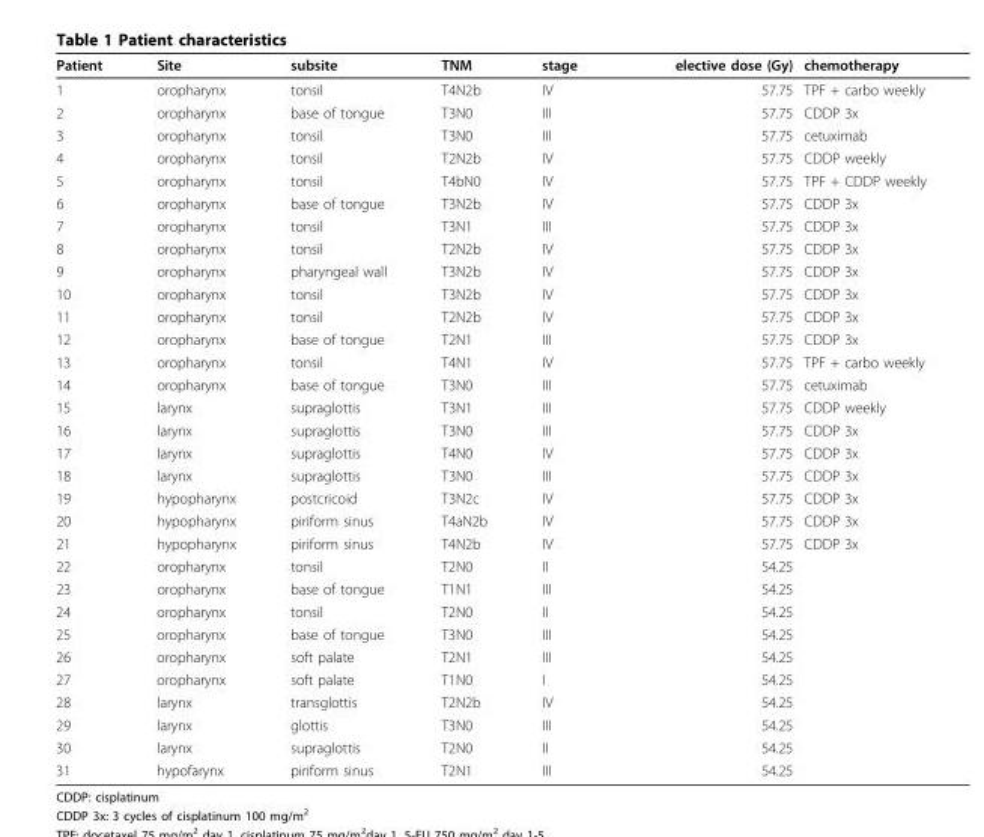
<table><thead><tr><td>Patient</td><td>Site</td><td>subsite</td><td>TNM</td><td>stage</td><td>elective dose (Gy)</td><td>chemotherapy</td></tr></thead><tbody><tr><td>1</td><td>oropharynx</td><td>tonsil</td><td>T4N2b</td><td>IV</td><td>57.75</td><td>TPF + carbo weekly</td></tr><tr><td>2</td><td>oropharynx</td><td>base of tongue</td><td>T3N0</td><td>III</td><td>57.75</td><td>CDDP 3x</td></tr><tr><td>3</td><td>oropharynx</td><td>tonsil</td><td>T3N0</td><td>III</td><td>57.75</td><td>cetuximab</td></tr><tr><td>4</td><td>oropharynx</td><td>tonsil</td><td>T2N2b</td><td>IV</td><td>57.75</td><td>CDDP weekly</td></tr><tr><td>5</td><td>oropharynx</td><td>tonsil</td><td>T4bN0</td><td>IV</td><td>57.75</td><td>TPF + CDDP weekly</td></tr><tr><td>6</td><td>oropharynx</td><td>base of tongue</td><td>T3N2b</td><td>IV</td><td>57.75</td><td>CDDP 3x</td></tr><tr><td>7</td><td>oropharynx</td><td>tonsil</td><td>T3N1</td><td>III</td><td>57.75</td><td>CDDP 3x</td></tr><tr><td>8</td><td>oropharynx</td><td>tonsil</td><td>T2N2b</td><td>IV</td><td>57.75</td><td>CDDP 3x</td></tr><tr><td>9</td><td>oropharynx</td><td>pharyngeal wall</td><td>T3N2b</td><td>IV</td><td>57.75</td><td>CDDP 3x</td></tr><tr><td>10</td><td>oropharynx</td><td>tonsil</td><td>T3N2b</td><td>IV</td><td>57.75</td><td>CDDP 3x</td></tr><tr><td>11</td><td>oropharynx</td><td>tonsil</td><td>T2N2b</td><td>IV</td><td>57.75</td><td>CDDP 3x</td></tr><tr><td>12</td><td>oropharynx</td><td>base of tongue</td><td>T2N1</td><td>III</td><td>57.75</td><td>CDDP 3x</td></tr><tr><td>13</td><td>oropharynx</td><td>tonsil</td><td>T4N1</td><td>IV</td><td>57.75</td><td>TPF + carbo weekly</td></tr><tr><td>14</td><td>oropharynx</td><td>base of tongue</td><td>T3N0</td><td>III</td><td>57.75</td><td>cetuximab</td></tr><tr><td>15</td><td>larynx</td><td>supraglottis</td><td>T3N1</td><td>III</td><td>57.75</td><td>CDDP weekly</td></tr><tr><td>16</td><td>larynx</td><td>supraglottis</td><td>T3N0</td><td>III</td><td>57.75</td><td>CDDP 3x</td></tr><tr><td>17</td><td>larynx</td><td>supraglottis</td><td>T4N0</td><td>IV</td><td>57.75</td><td>CDDP 3x</td></tr><tr><td>18</td><td>larynx</td><td>supraglottis</td><td>T3N0</td><td>III</td><td>57.75</td><td>CDDP 3x</td></tr><tr><td>19</td><td>hypopharynx</td><td>postcricoid</td><td>T3N2c</td><td>IV</td><td>57.75</td><td>CDDP 3x</td></tr><tr><td>20</td><td>hypopharynx</td><td>piriform sinus</td><td>T4aN2b</td><td>IV</td><td>57.75</td><td>CDDP 3x</td></tr><tr><td>21</td><td>hypopharynx</td><td>piriform sinus</td><td>T4N2b</td><td>IV</td><td>57.75</td><td>CDDP 3x</td></tr><tr><td>22</td><td>oropharynx</td><td>tonsil</td><td>T2N0</td><td>II</td><td>54.25</td><td></td></tr><tr><td>23</td><td>oropharynx</td><td>base of tongue</td><td>T1N1</td><td>III</td><td>54.25</td><td></td></tr><tr><td>24</td><td>oropharynx</td><td>tonsil</td><td>T2N0</td><td>II</td><td>54.25</td><td></td></tr><tr><td>25</td><td>oropharynx</td><td>base of tongue</td><td>T3N0</td><td>III</td><td>54.25</td><td></td></tr><tr><td>26</td><td>oropharynx</td><td>soft palate</td><td>T2N1</td><td>III</td><td>54.25</td><td></td></tr><tr><td>27</td><td>oropharynx</td><td>soft palate</td><td>T1N0</td><td>I</td><td>54.25</td><td></td></tr><tr><td>28</td><td>larynx</td><td>transglottis</td><td>T2N2b</td><td>IV</td><td>54.25</td><td></td></tr><tr><td>29</td><td>larynx</td><td>glottis</td><td>T3N0</td><td>III</td><td>54.25</td><td></td></tr><tr><td>30</td><td>larynx</td><td>supraglottis</td><td>T2N0</td><td>II</td><td>54.25</td><td></td></tr><tr><td>31</td><td>hypofarynx</td><td>piriform sinus</td><td>T2N1</td><td>III</td><td>54.25</td><td></td></tr></tbody></table>